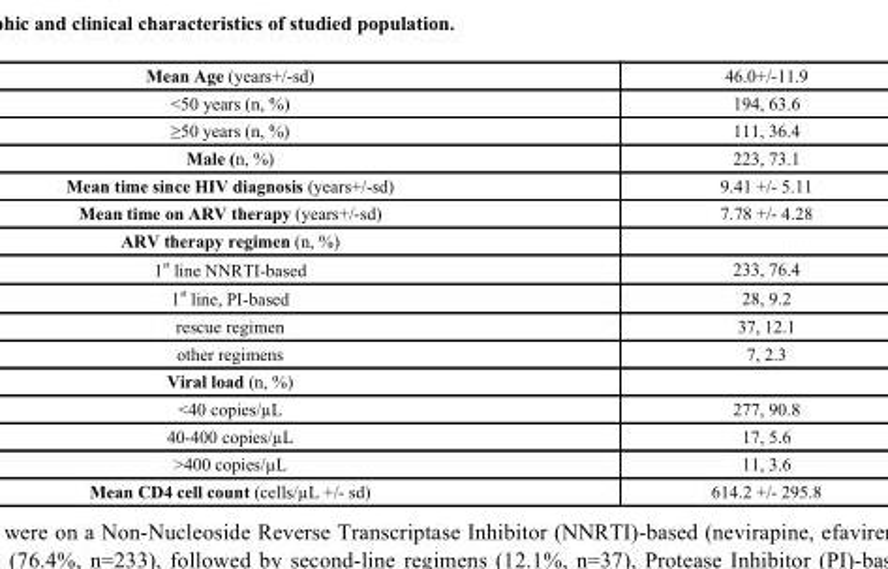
<table><tbody><tr><td>Mean Age (years+/-sd)</td><td>46.0+/-11.9</td></tr><tr><td>&lt;50 years (n, %)</td><td>194, 63.6</td></tr><tr><td>≥50 years (n, %)</td><td>111, 36.4</td></tr><tr><td>Male (n, %)</td><td>223, 73.1</td></tr><tr><td>Mean time since HIV diagnosis (years+/-sd)</td><td>9.41 +/- 5.11</td></tr><tr><td>Mean time on ARV therapy (years+/-sd)</td><td>7.78 +/- 4.28</td></tr><tr><td colspan="2">ARV therapy regimen (n, %)</td></tr><tr><td>1 <sup>st</sup> line NNRTI-based</td><td>233, 76.4</td></tr><tr><td>1 <sup>st</sup> line, PI-based</td><td>28, 9.2</td></tr><tr><td>rescue regimen</td><td>37, 12.1</td></tr><tr><td>other regimens</td><td>7, 2.3</td></tr><tr><td colspan="2">Viral load (n, %)</td></tr><tr><td>&lt;40 copies/µL</td><td>277, 90.8</td></tr><tr><td>40-400 copies/µL</td><td>17, 5.6</td></tr><tr><td>&gt;400 copies/µL</td><td>11, 3.6</td></tr><tr><td>Mean CD4 cell count (cells/µL +/- sd)</td><td>614.2 +/- 295.8</td></tr></tbody></table>